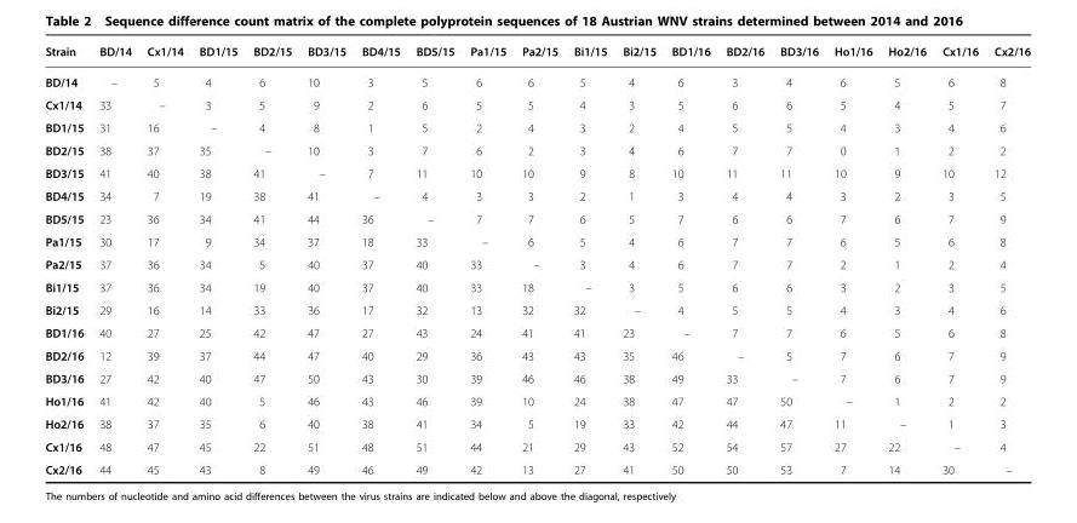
<table><thead><tr><td>Strain</td><td>BD/14</td><td>Cx1/14</td><td>BD1/15</td><td>BD2/15</td><td>BD3/15</td><td>BD4/15</td><td>BD5/15</td><td>Pa1/15</td><td>Pa2/15</td><td>Bi1/15</td><td>Bi2/15</td><td>BD1/16</td><td>BD2/16</td><td>BD3/16</td><td>Ho1/16</td><td>Ho2/16</td><td>Cx1/16</td><td>Cx2/16</td></tr></thead><tbody><tr><td>BD/14</td><td>–</td><td>5</td><td>4</td><td>6</td><td>10</td><td>3</td><td>5</td><td>6</td><td>6</td><td>5</td><td>4</td><td>6</td><td>3</td><td>4</td><td>6</td><td>5</td><td>6</td><td>8</td></tr><tr><td>Cx1/14</td><td>33</td><td>–</td><td>3</td><td>5</td><td>9</td><td>2</td><td>6</td><td>5</td><td>5</td><td>4</td><td>3</td><td>5</td><td>6</td><td>6</td><td>5</td><td>4</td><td>5</td><td>7</td></tr><tr><td>BD1/15</td><td>31</td><td>16</td><td>–</td><td>4</td><td>8</td><td>1</td><td>5</td><td>2</td><td>4</td><td>3</td><td>2</td><td>4</td><td>5</td><td>5</td><td>4</td><td>3</td><td>4</td><td>6</td></tr><tr><td>BD2/15</td><td>38</td><td>37</td><td>35</td><td>–</td><td>10</td><td>3</td><td>7</td><td>6</td><td>2</td><td>3</td><td>4</td><td>6</td><td>7</td><td>7</td><td>0</td><td>1</td><td>2</td><td>2</td></tr><tr><td>BD3/15</td><td>41</td><td>40</td><td>38</td><td>41</td><td>–</td><td>7</td><td>11</td><td>10</td><td>10</td><td>9</td><td>8</td><td>10</td><td>11</td><td>11</td><td>10</td><td>9</td><td>10</td><td>12</td></tr><tr><td>BD4/15</td><td>34</td><td>7</td><td>19</td><td>38</td><td>41</td><td>–</td><td>4</td><td>3</td><td>3</td><td>2</td><td>1</td><td>3</td><td>4</td><td>4</td><td>3</td><td>2</td><td>3</td><td>5</td></tr><tr><td>BD5/15</td><td>23</td><td>36</td><td>34</td><td>41</td><td>44</td><td>36</td><td>–</td><td>7</td><td>7</td><td>6</td><td>5</td><td>7</td><td>6</td><td>6</td><td>7</td><td>6</td><td>7</td><td>9</td></tr><tr><td>Pa1/15</td><td>30</td><td>17</td><td>9</td><td>34</td><td>37</td><td>18</td><td>33</td><td>–</td><td>6</td><td>5</td><td>4</td><td>6</td><td>7</td><td>7</td><td>6</td><td>5</td><td>6</td><td>8</td></tr><tr><td>Pa2/15</td><td>37</td><td>36</td><td>34</td><td>5</td><td>40</td><td>37</td><td>40</td><td>33</td><td>–</td><td>3</td><td>4</td><td>6</td><td>7</td><td>7</td><td>2</td><td>1</td><td>2</td><td>4</td></tr><tr><td>Bi1/15</td><td>37</td><td>36</td><td>34</td><td>19</td><td>40</td><td>37</td><td>40</td><td>33</td><td>18</td><td>–</td><td>3</td><td>5</td><td>6</td><td>6</td><td>3</td><td>2</td><td>3</td><td>5</td></tr><tr><td>Bi2/15</td><td>29</td><td>16</td><td>14</td><td>33</td><td>36</td><td>17</td><td>32</td><td>13</td><td>32</td><td>32</td><td>–</td><td>4</td><td>5</td><td>5</td><td>4</td><td>3</td><td>4</td><td>6</td></tr><tr><td>BD1/16</td><td>40</td><td>27</td><td>25</td><td>42</td><td>47</td><td>27</td><td>43</td><td>24</td><td>41</td><td>41</td><td>23</td><td>–</td><td>7</td><td>7</td><td>6</td><td>5</td><td>6</td><td>8</td></tr><tr><td>BD2/16</td><td>12</td><td>39</td><td>37</td><td>44</td><td>47</td><td>40</td><td>29</td><td>36</td><td>43</td><td>43</td><td>35</td><td>46</td><td>–</td><td>5</td><td>7</td><td>6</td><td>7</td><td>9</td></tr><tr><td>BD3/16</td><td>27</td><td>42</td><td>40</td><td>47</td><td>50</td><td>43</td><td>30</td><td>39</td><td>46</td><td>46</td><td>38</td><td>49</td><td>33</td><td>–</td><td>7</td><td>6</td><td>7</td><td>9</td></tr><tr><td>Ho1/16</td><td>41</td><td>42</td><td>40</td><td>5</td><td>46</td><td>43</td><td>46</td><td>39</td><td>10</td><td>24</td><td>38</td><td>47</td><td>47</td><td>50</td><td>–</td><td>1</td><td>2</td><td>2</td></tr><tr><td>Ho2/16</td><td>38</td><td>37</td><td>35</td><td>6</td><td>40</td><td>38</td><td>41</td><td>34</td><td>5</td><td>19</td><td>33</td><td>42</td><td>44</td><td>47</td><td>11</td><td>–</td><td>1</td><td>3</td></tr><tr><td>Cx1/16</td><td>48</td><td>47</td><td>45</td><td>22</td><td>51</td><td>48</td><td>51</td><td>44</td><td>21</td><td>29</td><td>43</td><td>52</td><td>54</td><td>57</td><td>27</td><td>22</td><td>–</td><td>4</td></tr><tr><td>Cx2/16</td><td>44</td><td>45</td><td>43</td><td>8</td><td>49</td><td>46</td><td>49</td><td>42</td><td>13</td><td>27</td><td>41</td><td>50</td><td>50</td><td>53</td><td>7</td><td>14</td><td>30</td><td>–</td></tr></tbody></table>